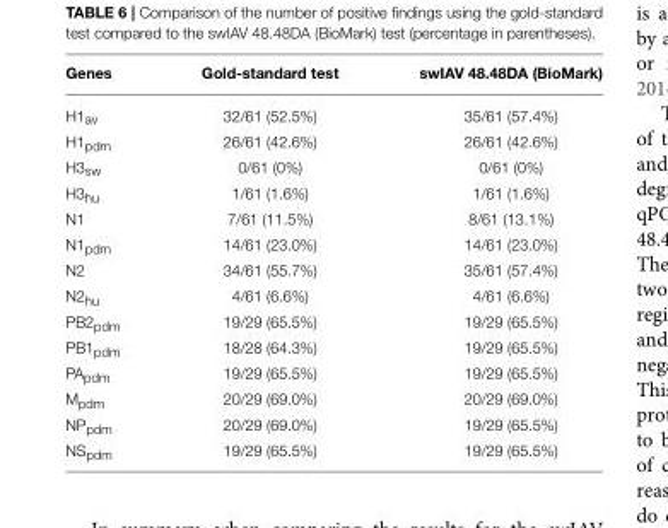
<table><thead><tr><td>Genes</td><td>Gold-standard test</td><td>swIAV 48.48DA (BioMark)</td></tr></thead><tbody><tr><td>H1<sub>av</sub></td><td>32/61 (52.5%)</td><td>35/61 (57.4%)</td></tr><tr><td>H1<sub>pdm</sub></td><td>26/61 (42.6%)</td><td>26/61 (42.6%)</td></tr><tr><td>H3<sub>sw</sub></td><td>0/61 (0%)</td><td>0/61 (0%)</td></tr><tr><td>H3<sub>hu</sub></td><td>1/61 (1.6%)</td><td>1/61 (1.6%)</td></tr><tr><td>N1</td><td>7/61 (11.5%)</td><td>8/61 (13.1%)</td></tr><tr><td>N1<sub>pdm</sub></td><td>14/61 (23.0%)</td><td>14/61 (23.0%)</td></tr><tr><td>N2</td><td>34/61 (55.7%)</td><td>35/61 (57.4%)</td></tr><tr><td>N2<sub>hu</sub></td><td>4/61 (6.6%)</td><td>4/61 (6.6%)</td></tr><tr><td>PB2<sub>pdm</sub></td><td>19/29 (65.5%)</td><td>19/29 (65.5%)</td></tr><tr><td>PB1<sub>pdm</sub></td><td>18/28 (64.3%)</td><td>19/29 (65.5%)</td></tr><tr><td>PA<sub>pdm</sub></td><td>19/29 (65.5%)</td><td>19/29 (65.5%)</td></tr><tr><td>M<sub>pdm</sub></td><td>20/29 (69.0%)</td><td>20/29 (69.0%)</td></tr><tr><td>NP<sub>pdm</sub></td><td>20/29 (69.0%)</td><td>19/29 (65.5%)</td></tr><tr><td>NS<sub>pdm</sub></td><td>19/29 (65.5%)</td><td>19/29 (65.5%)</td></tr></tbody></table>